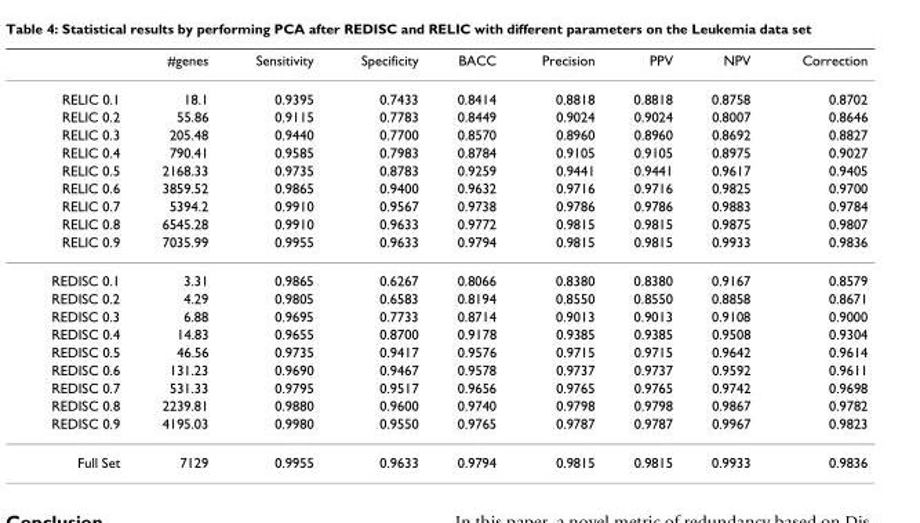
<table><thead><tr><td></td><td>#genes</td><td>Sensitivity</td><td>Specificity</td><td>BACC</td><td>Precision</td><td>PPV</td><td>NPV</td><td>Correction</td></tr></thead><tbody><tr><td>RELIC 0.1</td><td>18.1</td><td>0.9395</td><td>0.7433</td><td>0.8414</td><td>0.8818</td><td>0.8818</td><td>0.8758</td><td>0.8702</td></tr><tr><td>RELIC 0.2</td><td>55.86</td><td>0.9115</td><td>0.7783</td><td>0.8449</td><td>0.9024</td><td>0.9024</td><td>0.8007</td><td>0.8646</td></tr><tr><td>RELIC 0.3</td><td>205.48</td><td>0.9440</td><td>0.7700</td><td>0.8570</td><td>0.8960</td><td>0.8960</td><td>0.8692</td><td>0.8827</td></tr><tr><td>RELIC 0.4</td><td>790.41</td><td>0.9585</td><td>0.7983</td><td>0.8784</td><td>0.9105</td><td>0.9105</td><td>0.8975</td><td>0.9027</td></tr><tr><td>RELIC 0.5</td><td>2168.33</td><td>0.9735</td><td>0.8783</td><td>0.9259</td><td>0.9441</td><td>0.9441</td><td>0.9617</td><td>0.9405</td></tr><tr><td>RELIC 0.6</td><td>3859.52</td><td>0.9865</td><td>0.9400</td><td>0.9632</td><td>0.9716</td><td>0.9716</td><td>0.9825</td><td>0.9700</td></tr><tr><td>RELIC 0.7</td><td>5394.2</td><td>0.9910</td><td>0.9567</td><td>0.9738</td><td>0.9786</td><td>0.9786</td><td>0.9883</td><td>0.9784</td></tr><tr><td>RELIC 0.8</td><td>6545.28</td><td>0.9910</td><td>0.9633</td><td>0.9772</td><td>0.9815</td><td>0.9815</td><td>0.9875</td><td>0.9807</td></tr><tr><td>RELIC 0.9</td><td>7035.99</td><td>0.9955</td><td>0.9633</td><td>0.9794</td><td>0.9815</td><td>0.9815</td><td>0.9933</td><td>0.9836</td></tr><tr><td>REDISC 0.1</td><td>3.31</td><td>0.9865</td><td>0.6267</td><td>0.8066</td><td>0.8380</td><td>0.8380</td><td>0.9167</td><td>0.8579</td></tr><tr><td>REDISC 0.2</td><td>4.29</td><td>0.9805</td><td>0.6583</td><td>0.8194</td><td>0.8550</td><td>0.8550</td><td>0.8858</td><td>0.8671</td></tr><tr><td>REDISC 0.3</td><td>6.88</td><td>0.9695</td><td>0.7733</td><td>0.8714</td><td>0.9013</td><td>0.9013</td><td>0.9108</td><td>0.9000</td></tr><tr><td>REDISC 0.4</td><td>14.83</td><td>0.9655</td><td>0.8700</td><td>0.9178</td><td>0.9385</td><td>0.9385</td><td>0.9508</td><td>0.9304</td></tr><tr><td>REDISC 0.5</td><td>46.56</td><td>0.9735</td><td>0.9417</td><td>0.9576</td><td>0.9715</td><td>0.9715</td><td>0.9642</td><td>0.9614</td></tr><tr><td>REDISC 0.6</td><td>131.23</td><td>0.9690</td><td>0.9467</td><td>0.9578</td><td>0.9737</td><td>0.9737</td><td>0.9592</td><td>0.9611</td></tr><tr><td>REDISC 0.7</td><td>531.33</td><td>0.9795</td><td>0.9517</td><td>0.9656</td><td>0.9765</td><td>0.9765</td><td>0.9742</td><td>0.9698</td></tr><tr><td>REDISC 0.8</td><td>2239.81</td><td>0.9880</td><td>0.9600</td><td>0.9740</td><td>0.9798</td><td>0.9798</td><td>0.9867</td><td>0.9782</td></tr><tr><td>REDISC 0.9</td><td>4195.03</td><td>0.9980</td><td>0.9550</td><td>0.9765</td><td>0.9787</td><td>0.9787</td><td>0.9967</td><td>0.9823</td></tr><tr><td>Full Set</td><td>7129</td><td>0.9955</td><td>0.9633</td><td>0.9794</td><td>0.9815</td><td>0.9815</td><td>0.9933</td><td>0.9836</td></tr></tbody></table>